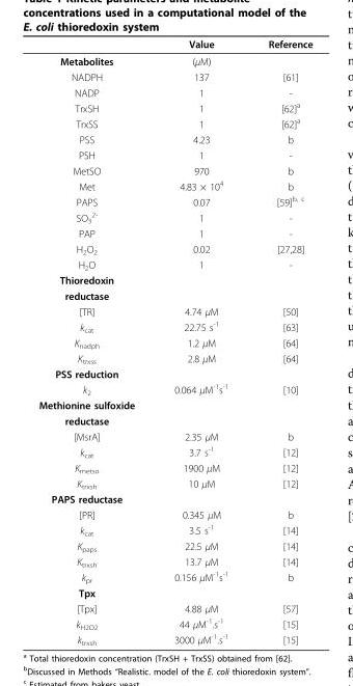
<table><thead><tr><td></td><td>Value</td><td>Reference</td></tr></thead><tbody><tr><td>Metabolites</td><td>(μM)</td><td></td></tr><tr><td>NADPH</td><td>137</td><td>[61]</td></tr><tr><td>NADP</td><td>1</td><td>-</td></tr><tr><td>TrxSH</td><td>1</td><td>[62]<sup>a</sup></td></tr><tr><td>TrxSS</td><td>1</td><td>[62]<sup>a</sup></td></tr><tr><td>PSS</td><td>4.23</td><td>b</td></tr><tr><td>PSH</td><td>1</td><td>-</td></tr><tr><td>MetSO</td><td>970</td><td>b</td></tr><tr><td>Met</td><td>4.83 × 10<sup>4</sup></td><td>b</td></tr><tr><td>PAPS</td><td>0.07</td><td>[59]<sup>b, c</sup></td></tr><tr><td>SO<sub>3</sub> <sup>2-</sup></td><td>1</td><td>-</td></tr><tr><td>PAP</td><td>1</td><td>-</td></tr><tr><td>H<sub>2</sub>O<sub>2</sub></td><td>0.02</td><td>[27,28]</td></tr><tr><td>H<sub>2</sub>O</td><td>1</td><td>-</td></tr><tr><td colspan="3">Thioredoxin</td></tr><tr><td colspan="3">reductase</td></tr><tr><td>[TR]</td><td>4.74 μM</td><td>[50]</td></tr><tr><td>k<sub>cat</sub></td><td>22.75 s<sup>-1</sup></td><td>[63]</td></tr><tr><td>K<sub>nadph</sub></td><td>1.2 μM</td><td>[64]</td></tr><tr><td>K<sub>trxss</sub></td><td>2.8 μM</td><td>[64]</td></tr><tr><td colspan="3">PSS reduction</td></tr><tr><td>k<sub>2</sub></td><td>0.064 μM<sup>-1</sup>s<sup>-1</sup></td><td>[10]</td></tr><tr><td colspan="3">Methionine sulfoxide</td></tr><tr><td colspan="3">reductase</td></tr><tr><td>[MsrA]</td><td>2.35 μM</td><td>b</td></tr><tr><td>k<sub>cat</sub></td><td>3.7 s<sup>-1</sup></td><td>[12]</td></tr><tr><td>K<sub>metso</sub></td><td>1900 μM</td><td>[12]</td></tr><tr><td>K<sub>trxsh</sub></td><td>10 μM</td><td>[12]</td></tr><tr><td colspan="3">PAPS reductase</td></tr><tr><td>[PR]</td><td>0.345 μM</td><td>b</td></tr><tr><td>k<sub>cat</sub></td><td>3.5 s<sup>-1</sup></td><td>[14]</td></tr><tr><td>K<sub>paps</sub></td><td>22.5 μM</td><td>[14]</td></tr><tr><td>K<sub>trxsh</sub></td><td>13.7 μM</td><td>[14]</td></tr><tr><td>k<sub>pr</sub></td><td>0.156 μM<sup>-1</sup>s<sup>-1</sup></td><td>b</td></tr><tr><td colspan="3">Tpx</td></tr><tr><td>[Tpx]</td><td>4.88 μM</td><td>[57]</td></tr><tr><td>k<sub>H2O2</sub></td><td>44 μM<sup>-1</sup>.s<sup>-1</sup></td><td>[15]</td></tr><tr><td>k<sub>trxsh</sub></td><td>3000 μM<sup>-1</sup>.s<sup>-1</sup></td><td>[15]</td></tr></tbody></table>